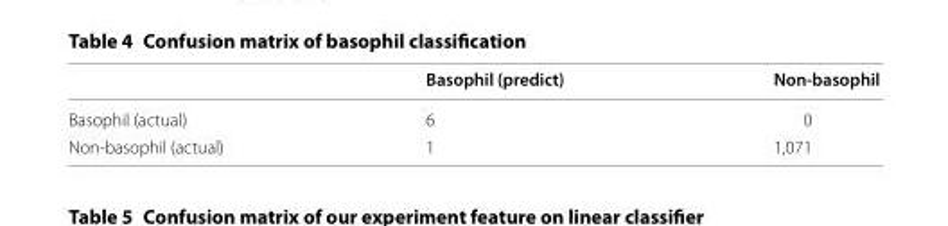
<table><thead><tr><td></td><td>Basophil (predict)</td><td>Non‑basophil</td></tr></thead><tbody><tr><td>Basophil (actual)</td><td>6</td><td>0</td></tr><tr><td>Non-basophil (actual)</td><td>1</td><td>1,071</td></tr></tbody></table>